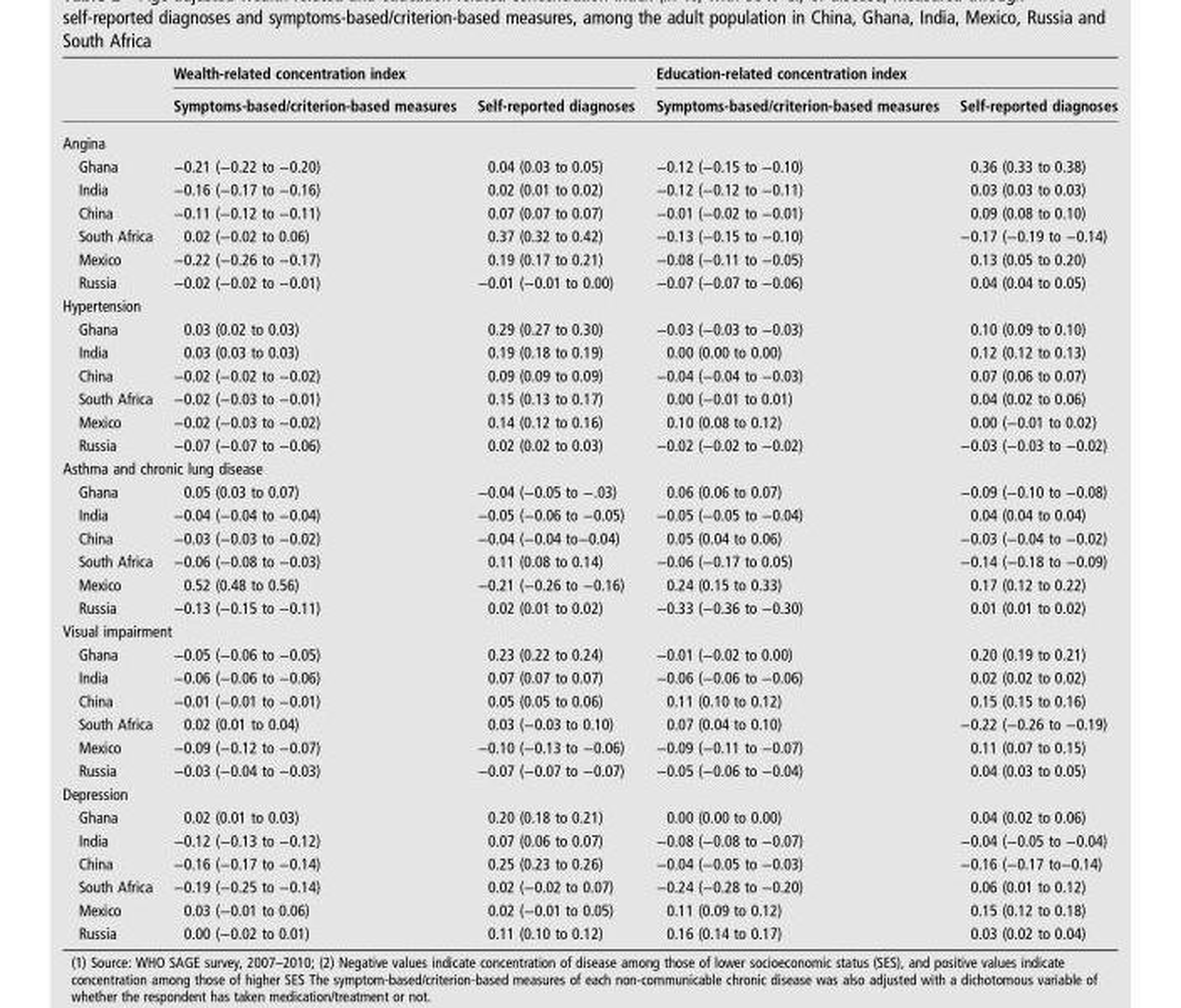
<table><thead><tr><td rowspan="2"></td><td colspan="2">Wealth-related concentration index</td><td colspan="2">Education-related concentration index</td></tr><tr><td>Symptoms-based/criterion-based measures</td><td>Self-reported diagnoses</td><td>Symptoms-based/criterion-based measures</td><td>Self-reported diagnoses</td></tr></thead><tbody><tr><td colspan="5">Angina</td></tr><tr><td>Ghana</td><td>−0.21 (−0.22 to −0.20)</td><td>0.04 (0.03 to 0.05)</td><td>−0.12 (−0.15 to −0.10)</td><td>0.36 (0.33 to 0.38)</td></tr><tr><td>India</td><td>−0.16 (−0.17 to −0.16)</td><td>0.02 (0.01 to 0.02)</td><td>−0.12 (−0.12 to −0.11)</td><td>0.03 (0.03 to 0.03)</td></tr><tr><td>China</td><td>−0.11 (−0.12 to −0.11)</td><td>0.07 (0.07 to 0.07)</td><td>−0.01 (−0.02 to −0.01)</td><td>0.09 (0.08 to 0.10)</td></tr><tr><td>South Africa</td><td>0.02 (−0.02 to 0.06)</td><td>0.37 (0.32 to 0.42)</td><td>−0.13 (−0.15 to −0.10)</td><td>−0.17 (−0.19 to −0.14)</td></tr><tr><td>Mexico</td><td>−0.22 (−0.26 to −0.17)</td><td>0.19 (0.17 to 0.21)</td><td>−0.08 (−0.11 to −0.05)</td><td>0.13 (0.05 to 0.20)</td></tr><tr><td>Russia</td><td>−0.02 (−0.02 to −0.01)</td><td>−0.01 (−0.01 to 0.00)</td><td>−0.07 (−0.07 to −0.06)</td><td>0.04 (0.04 to 0.05)</td></tr><tr><td colspan="5">Hypertension</td></tr><tr><td>Ghana</td><td>0.03 (0.02 to 0.03)</td><td>0.29 (0.27 to 0.30)</td><td>−0.03 (−0.03 to −0.03)</td><td>0.10 (0.09 to 0.10)</td></tr><tr><td>India</td><td>0.03 (0.03 to 0.03)</td><td>0.19 (0.18 to 0.19)</td><td>0.00 (0.00 to 0.00)</td><td>0.12 (0.12 to 0.13)</td></tr><tr><td>China</td><td>−0.02 (−0.02 to −0.02)</td><td>0.09 (0.09 to 0.09)</td><td>−0.04 (−0.04 to −0.03)</td><td>0.07 (0.06 to 0.07)</td></tr><tr><td>South Africa</td><td>−0.02 (−0.03 to −0.01)</td><td>0.15 (0.13 to 0.17)</td><td>0.00 (−0.01 to 0.01)</td><td>0.04 (0.02 to 0.06)</td></tr><tr><td>Mexico</td><td>−0.02 (−0.03 to −0.02)</td><td>0.14 (0.12 to 0.16)</td><td>0.10 (0.08 to 0.12)</td><td>0.00 (−0.01 to 0.02)</td></tr><tr><td>Russia</td><td>−0.07 (−0.07 to −0.06)</td><td>0.02 (0.02 to 0.03)</td><td>−0.02 (−0.02 to −0.02)</td><td>−0.03 (−0.03 to −0.02)</td></tr><tr><td colspan="5">Asthma and chronic lung disease</td></tr><tr><td>Ghana</td><td>0.05 (0.03 to 0.07)</td><td>−0.04 (−0.05 to −.03)</td><td>0.06 (0.06 to 0.07)</td><td>−0.09 (−0.10 to −0.08)</td></tr><tr><td>India</td><td>−0.04 (−0.04 to −0.04)</td><td>−0.05 (−0.06 to −0.05)</td><td>−0.05 (−0.05 to −0.04)</td><td>0.04 (0.04 to 0.04)</td></tr><tr><td>China</td><td>−0.03 (−0.03 to −0.02)</td><td>−0.04 (−0.04 to−0.04)</td><td>0.05 (0.04 to 0.06)</td><td>−0.03 (−0.04 to −0.02)</td></tr><tr><td>South Africa</td><td>−0.06 (−0.08 to −0.03)</td><td>0.11 (0.08 to 0.14)</td><td>−0.06 (−0.17 to 0.05)</td><td>−0.14 (−0.18 to −0.09)</td></tr><tr><td>Mexico</td><td>0.52 (0.48 to 0.56)</td><td>−0.21 (−0.26 to −0.16)</td><td>0.24 (0.15 to 0.33)</td><td>0.17 (0.12 to 0.22)</td></tr><tr><td>Russia</td><td>−0.13 (−0.15 to −0.11)</td><td>0.02 (0.01 to 0.02)</td><td>−0.33 (−0.36 to −0.30)</td><td>0.01 (0.01 to 0.02)</td></tr><tr><td colspan="5">Visual impairment</td></tr><tr><td>Ghana</td><td>−0.05 (−0.06 to −0.05)</td><td>0.23 (0.22 to 0.24)</td><td>−0.01 (−0.02 to 0.00)</td><td>0.20 (0.19 to 0.21)</td></tr><tr><td>India</td><td>−0.06 (−0.06 to −0.06)</td><td>0.07 (0.07 to 0.07)</td><td>−0.06 (−0.06 to −0.06)</td><td>0.02 (0.02 to 0.02)</td></tr><tr><td>China</td><td>−0.01 (−0.01 to −0.01)</td><td>0.05 (0.05 to 0.06)</td><td>0.11 (0.10 to 0.12)</td><td>0.15 (0.15 to 0.16)</td></tr><tr><td>South Africa</td><td>0.02 (0.01 to 0.04)</td><td>0.03 (−0.03 to 0.10)</td><td>0.07 (0.04 to 0.10)</td><td>−0.22 (−0.26 to −0.19)</td></tr><tr><td>Mexico</td><td>−0.09 (−0.12 to −0.07)</td><td>−0.10 (−0.13 to −0.06)</td><td>−0.09 (−0.11 to −0.07)</td><td>0.11 (0.07 to 0.15)</td></tr><tr><td>Russia</td><td>−0.03 (−0.04 to −0.03)</td><td>−0.07 (−0.07 to −0.07)</td><td>−0.05 (−0.06 to −0.04)</td><td>0.04 (0.03 to 0.05)</td></tr><tr><td colspan="5">Depression</td></tr><tr><td>Ghana</td><td>0.02 (0.01 to 0.03)</td><td>0.20 (0.18 to 0.21)</td><td>0.00 (0.00 to 0.00)</td><td>0.04 (0.02 to 0.06)</td></tr><tr><td>India</td><td>−0.12 (−0.13 to −0.12)</td><td>0.07 (0.06 to 0.07)</td><td>−0.08 (−0.08 to −0.07)</td><td>−0.04 (−0.05 to −0.04)</td></tr><tr><td>China</td><td>−0.16 (−0.17 to −0.14)</td><td>0.25 (0.23 to 0.26)</td><td>−0.04 (−0.05 to −0.03)</td><td>−0.16 (−0.17 to−0.14)</td></tr><tr><td>South Africa</td><td>−0.19 (−0.25 to −0.14)</td><td>0.02 (−0.02 to 0.07)</td><td>−0.24 (−0.28 to −0.20)</td><td>0.06 (0.01 to 0.12)</td></tr><tr><td>Mexico</td><td>0.03 (−0.01 to 0.06)</td><td>0.02 (−0.01 to 0.05)</td><td>0.11 (0.09 to 0.12)</td><td>0.15 (0.12 to 0.18)</td></tr><tr><td>Russia</td><td>0.00 (−0.02 to 0.01)</td><td>0.11 (0.10 to 0.12)</td><td>0.16 (0.14 to 0.17)</td><td>0.03 (0.02 to 0.04)</td></tr></tbody></table>